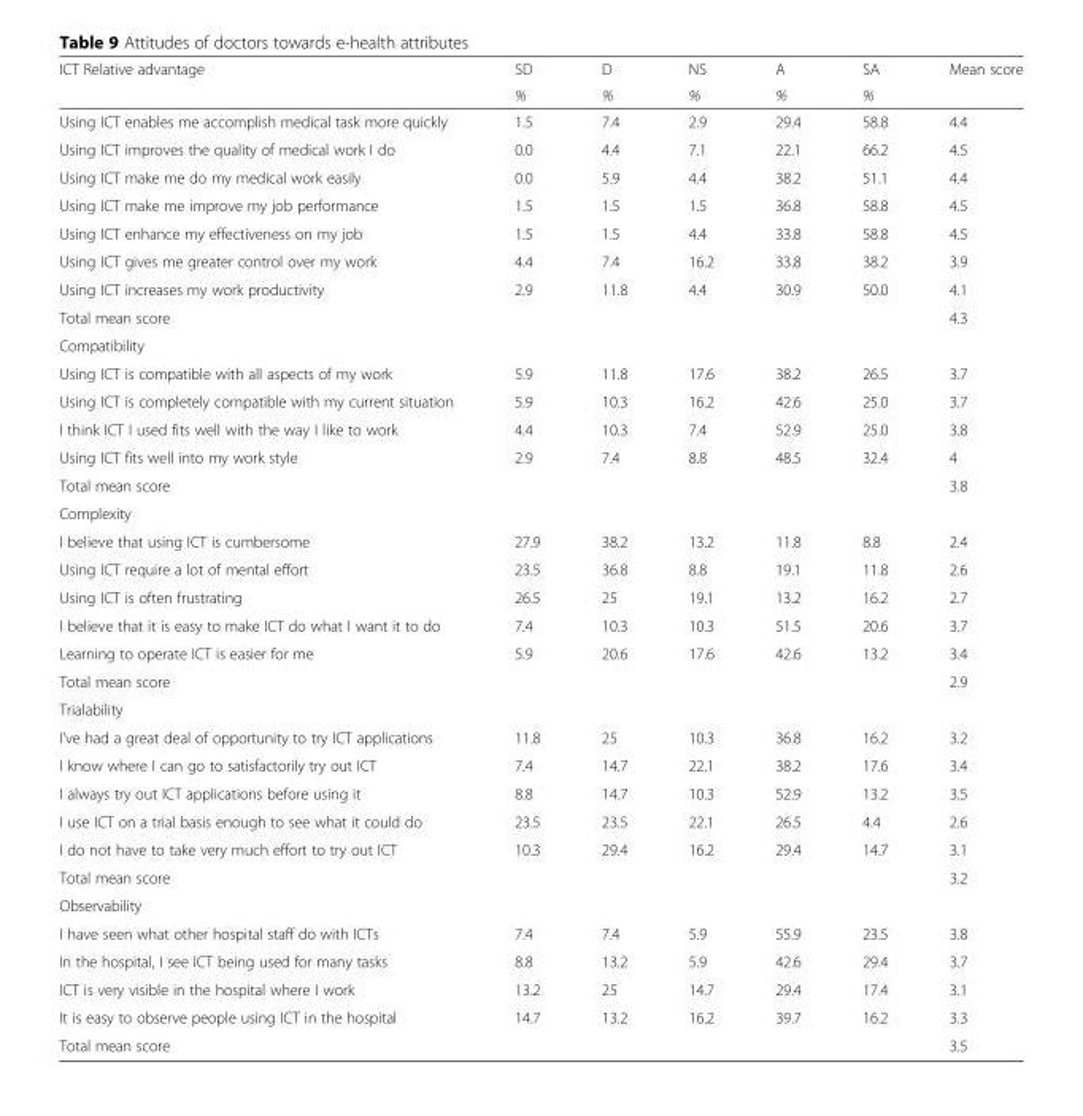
<table><thead><tr><td rowspan="2">ICT Relative advantage</td><td rowspan="2">SD %</td><td rowspan="2">D %</td><td rowspan="2">NS %</td><td rowspan="2">A %</td><td rowspan="2">SA %</td><td rowspan="2">Mean score</td></tr><tr></tr></thead><tbody><tr><td>Using ICT enables me accomplish medical task more quickly</td><td>1.5</td><td>7.4</td><td>2.9</td><td>29.4</td><td>58.8</td><td>4.4</td></tr><tr><td>Using ICT improves the quality of medical work I do</td><td>0.0</td><td>4.4</td><td>7.1</td><td>22.1</td><td>66.2</td><td>4.5</td></tr><tr><td>Using ICT make me do my medical work easily</td><td>0.0</td><td>5.9</td><td>4.4</td><td>38.2</td><td>51.1</td><td>4.4</td></tr><tr><td>Using ICT make me improve my job performance</td><td>1.5</td><td>1.5</td><td>1.5</td><td>36.8</td><td>58.8</td><td>4.5</td></tr><tr><td>Using ICT enhance my effectiveness on my job</td><td>1.5</td><td>1.5</td><td>4.4</td><td>33.8</td><td>58.8</td><td>4.5</td></tr><tr><td>Using ICT gives me greater control over my work</td><td>4.4</td><td>7.4</td><td>16.2</td><td>33.8</td><td>38.2</td><td>3.9</td></tr><tr><td>Using ICT increases my work productivity</td><td>2.9</td><td>11.8</td><td>4.4</td><td>30.9</td><td>50.0</td><td>4.1</td></tr><tr><td>Total mean score</td><td></td><td></td><td></td><td></td><td></td><td>4.3</td></tr><tr><td colspan="7">Compatibility</td></tr><tr><td>Using ICT is compatible with all aspects of my work</td><td>5.9</td><td>11.8</td><td>17.6</td><td>38.2</td><td>26.5</td><td>3.7</td></tr><tr><td>Using ICT is completely compatible with my current situation</td><td>5.9</td><td>10.3</td><td>16.2</td><td>42.6</td><td>25.0</td><td>3.7</td></tr><tr><td>I think ICT I used fits well with the way I like to work</td><td>4.4</td><td>10.3</td><td>7.4</td><td>52.9</td><td>25.0</td><td>3.8</td></tr><tr><td>Using ICT fits well into my work style</td><td>2.9</td><td>7.4</td><td>8.8</td><td>48.5</td><td>32.4</td><td>4</td></tr><tr><td>Total mean score</td><td></td><td></td><td></td><td></td><td></td><td>3.8</td></tr><tr><td colspan="7">Complexity</td></tr><tr><td>I believe that using ICT is cumbersome</td><td>27.9</td><td>38.2</td><td>13.2</td><td>11.8</td><td>8.8</td><td>2.4</td></tr><tr><td>Using ICT require a lot of mental effort</td><td>23.5</td><td>36.8</td><td>8.8</td><td>19.1</td><td>11.8</td><td>2.6</td></tr><tr><td>Using ICT is often frustrating</td><td>26.5</td><td>25</td><td>19.1</td><td>13.2</td><td>16.2</td><td>2.7</td></tr><tr><td>I believe that it is easy to make ICT do what I want it to do</td><td>7.4</td><td>10.3</td><td>10.3</td><td>51.5</td><td>20.6</td><td>3.7</td></tr><tr><td>Learning to operate ICT is easier for me</td><td>5.9</td><td>20.6</td><td>17.6</td><td>42.6</td><td>13.2</td><td>3.4</td></tr><tr><td>Total mean score</td><td></td><td></td><td></td><td></td><td></td><td>2.9</td></tr><tr><td colspan="7">Trialability</td></tr><tr><td>I’ve had a great deal of opportunity to try ICT applications</td><td>11.8</td><td>25</td><td>10.3</td><td>36.8</td><td>16.2</td><td>3.2</td></tr><tr><td>I know where I can go to satisfactorily try out ICT</td><td>7.4</td><td>14.7</td><td>22.1</td><td>38.2</td><td>17.6</td><td>3.4</td></tr><tr><td>I always try out ICT applications before using it</td><td>8.8</td><td>14.7</td><td>10.3</td><td>52.9</td><td>13.2</td><td>3.5</td></tr><tr><td>I use ICT on a trial basis enough to see what it could do</td><td>23.5</td><td>23.5</td><td>22.1</td><td>26.5</td><td>4.4</td><td>2.6</td></tr><tr><td>I do not have to take very much effort to try out ICT</td><td>10.3</td><td>29.4</td><td>16.2</td><td>29.4</td><td>14.7</td><td>3.1</td></tr><tr><td>Total mean score</td><td></td><td></td><td></td><td></td><td></td><td>3.2</td></tr><tr><td colspan="7">Observability</td></tr><tr><td>I have seen what other hospital staff do with ICTs</td><td>7.4</td><td>7.4</td><td>5.9</td><td>55.9</td><td>23.5</td><td>3.8</td></tr><tr><td>In the hospital, I see ICT being used for many tasks</td><td>8.8</td><td>13.2</td><td>5.9</td><td>42.6</td><td>29.4</td><td>3.7</td></tr><tr><td>ICT is very visible in the hospital where I work</td><td>13.2</td><td>25</td><td>14.7</td><td>29.4</td><td>17.4</td><td>3.1</td></tr><tr><td>It is easy to observe people using ICT in the hospital</td><td>14.7</td><td>13.2</td><td>16.2</td><td>39.7</td><td>16.2</td><td>3.3</td></tr><tr><td>Total mean score</td><td></td><td></td><td></td><td></td><td></td><td>3.5</td></tr></tbody></table>